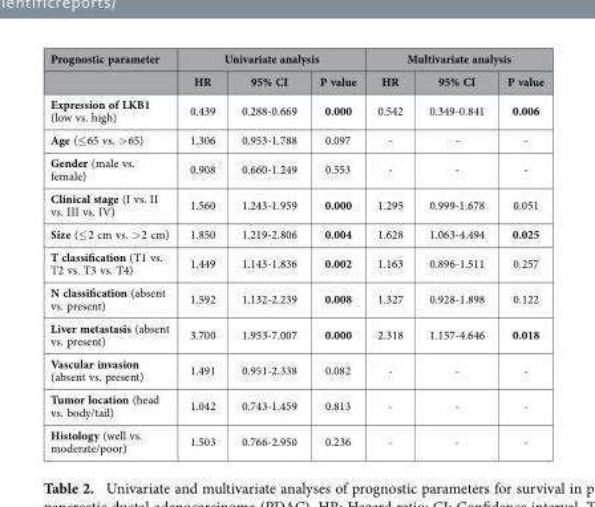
<table><thead><tr><td rowspan="2">Prognostic parameter</td><td colspan="3">Univariate analysis</td><td colspan="3">Multivariate analysis</td></tr><tr><td>HR</td><td>95% CI</td><td>P value</td><td>HR</td><td>95% CI</td><td>P value</td></tr></thead><tbody><tr><td>Expression of LKB1 (low vs. high)</td><td>0.439</td><td>0.288-0.669</td><td>0.000</td><td>0.542</td><td>0.349-0.841</td><td>0.006</td></tr><tr><td>Age (≤ 65 vs. &gt; 65)</td><td>1.306</td><td>0.953-1.788</td><td>0.097</td><td>-</td><td>-</td><td>-</td></tr><tr><td>Gender (male vs. female)</td><td>0.908</td><td>0.660-1.249</td><td>0.553</td><td>-</td><td>-</td><td>-</td></tr><tr><td>Clinical stage (I vs. II vs. III vs. IV)</td><td>1.560</td><td>1.243-1.959</td><td>0.000</td><td>1.295</td><td>0.999-1.678</td><td>0.051</td></tr><tr><td>Size (≤ 2 cm vs. &gt; 2 cm)</td><td>1.850</td><td>1.219-2.806</td><td>0.004</td><td>1.628</td><td>1.063-4.494</td><td>0.025</td></tr><tr><td>T classification (T1 vs. T2 vs. T3 vs. T4)</td><td>1.449</td><td>1.143-1.836</td><td>0.002</td><td>1.163</td><td>0.896-1.511</td><td>0.257</td></tr><tr><td>N classification (absent vs. present)</td><td>1.592</td><td>1.132-2.239</td><td>0.008</td><td>1.327</td><td>0.928-1.898</td><td>0.122</td></tr><tr><td>Liver metastasis (absent vs. present)</td><td>3.700</td><td>1.953-7.007</td><td>0.000</td><td>2.318</td><td>1.157-4.646</td><td>0.018</td></tr><tr><td>Vascular invasion (absent vs. present)</td><td>1.491</td><td>0.951-2.338</td><td>0.082</td><td>-</td><td>-</td><td>-</td></tr><tr><td>Tumor location (head vs. body/tail)</td><td>1.042</td><td>0.743-1.459</td><td>0.813</td><td>-</td><td>-</td><td>-</td></tr><tr><td>Histology (well vs. moderate/poor)</td><td>1.503</td><td>0.766-2.950</td><td>0.236</td><td>-</td><td>-</td><td>-</td></tr></tbody></table>